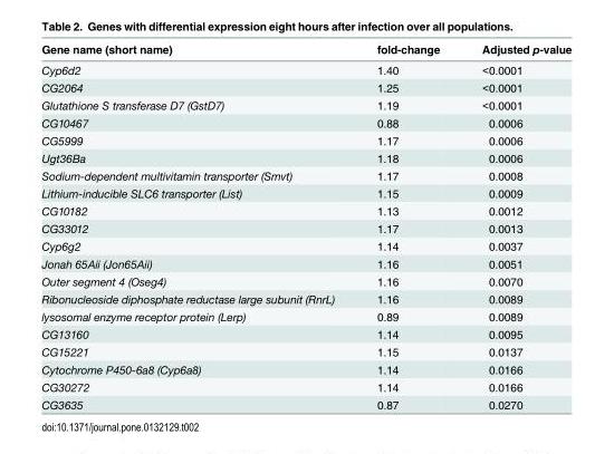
<table><thead><tr><td>Gene name (short name)</td><td>fold-change</td><td>Adjusted p-value</td></tr></thead><tbody><tr><td>Cyp6d2</td><td>1.40</td><td>&lt;0.0001</td></tr><tr><td>CG2064</td><td>1.25</td><td>&lt;0.0001</td></tr><tr><td>Glutathione S transferase D7 (GstD7)</td><td>1.19</td><td>&lt;0.0001</td></tr><tr><td>CG10467</td><td>0.88</td><td>0.0006</td></tr><tr><td>CG5999</td><td>1.17</td><td>0.0006</td></tr><tr><td>Ugt36Ba</td><td>1.18</td><td>0.0006</td></tr><tr><td>Sodium-dependent multivitamin transporter (Smvt)</td><td>1.17</td><td>0.0008</td></tr><tr><td>Lithium-inducible SLC6 transporter (List)</td><td>1.15</td><td>0.0009</td></tr><tr><td>CG10182</td><td>1.13</td><td>0.0012</td></tr><tr><td>CG33012</td><td>1.17</td><td>0.0013</td></tr><tr><td>Cyp6g2</td><td>1.14</td><td>0.0037</td></tr><tr><td>Jonah 65Aii (Jon65Aii)</td><td>1.16</td><td>0.0051</td></tr><tr><td>Outer segment 4 (Oseg4)</td><td>1.16</td><td>0.0070</td></tr><tr><td>Ribonucleoside diphosphate reductase large subunit (RnrL)</td><td>1.16</td><td>0.0089</td></tr><tr><td>lysosomal enzyme receptor protein (Lerp)</td><td>0.89</td><td>0.0089</td></tr><tr><td>CG13160</td><td>1.14</td><td>0.0095</td></tr><tr><td>CG15221</td><td>1.15</td><td>0.0137</td></tr><tr><td>Cytochrome P450-6a8 (Cyp6a8)</td><td>1.14</td><td>0.0166</td></tr><tr><td>CG30272</td><td>1.14</td><td>0.0166</td></tr><tr><td>CG3635</td><td>0.87</td><td>0.0270</td></tr></tbody></table>